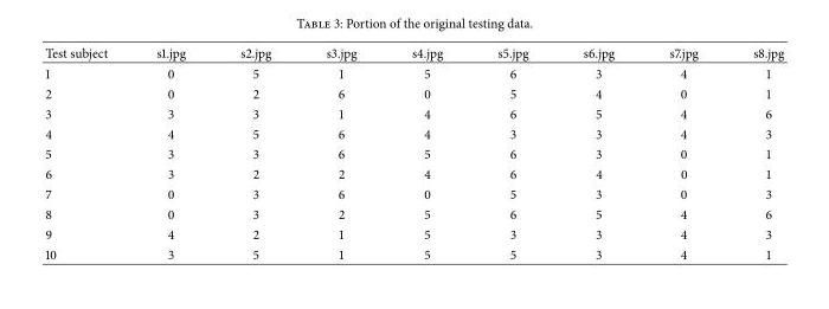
<table><thead><tr><td>Test subject</td><td>s1.jpg</td><td>s2.jpg</td><td>s3.jpg</td><td>s4.jpg</td><td>s5.jpg</td><td>s6.jpg</td><td>s7.jpg</td><td>s8.jpg</td></tr></thead><tbody><tr><td>1</td><td>0</td><td>5</td><td>1</td><td>5</td><td>6</td><td>3</td><td>4</td><td>1</td></tr><tr><td>2</td><td>0</td><td>2</td><td>6</td><td>0</td><td>5</td><td>4</td><td>0</td><td>1</td></tr><tr><td>3</td><td>3</td><td>3</td><td>1</td><td>4</td><td>6</td><td>5</td><td>4</td><td>6</td></tr><tr><td>4</td><td>4</td><td>5</td><td>6</td><td>4</td><td>3</td><td>3</td><td>4</td><td>3</td></tr><tr><td>5</td><td>3</td><td>3</td><td>6</td><td>5</td><td>6</td><td>3</td><td>0</td><td>1</td></tr><tr><td>6</td><td>3</td><td>2</td><td>2</td><td>4</td><td>6</td><td>4</td><td>0</td><td>1</td></tr><tr><td>7</td><td>0</td><td>3</td><td>6</td><td>0</td><td>5</td><td>3</td><td>0</td><td>3</td></tr><tr><td>8</td><td>0</td><td>3</td><td>2</td><td>5</td><td>6</td><td>5</td><td>4</td><td>6</td></tr><tr><td>9</td><td>4</td><td>2</td><td>1</td><td>5</td><td>3</td><td>3</td><td>4</td><td>3</td></tr><tr><td>10</td><td>3</td><td>5</td><td>1</td><td>5</td><td>5</td><td>3</td><td>4</td><td>1</td></tr></tbody></table>